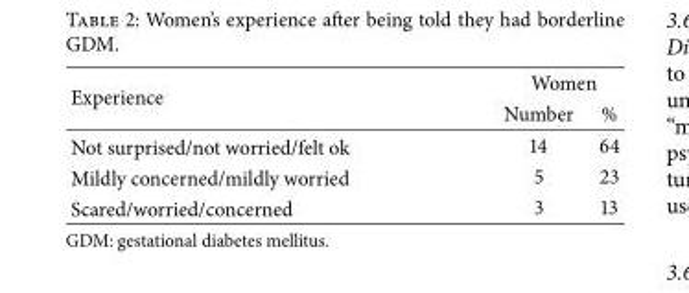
<table><thead><tr><td rowspan="2">Experience</td><td colspan="2">Women</td></tr><tr><td>Number</td><td>%</td></tr></thead><tbody><tr><td>Not surprised/not worried/felt ok</td><td>14</td><td>64</td></tr><tr><td>Mildly concerned/mildly worried</td><td>5</td><td>23</td></tr><tr><td>Scared/worried/concerned</td><td>3</td><td>13</td></tr></tbody></table>